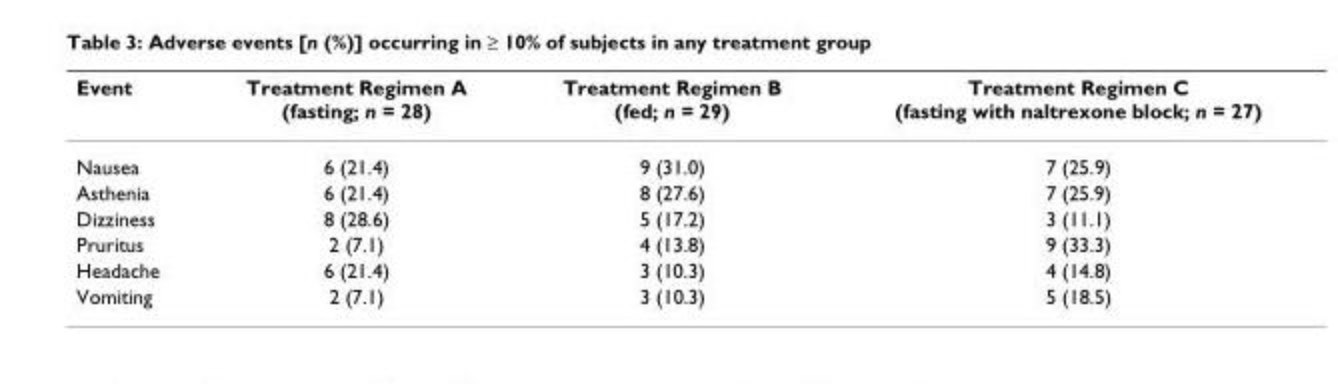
<table><thead><tr><td>Event</td><td>Treatment Regimen A (fasting; n = 28)</td><td>Treatment Regimen B (fed; n = 29)</td><td>Treatment Regimen C (fasting with naltrexone block; n = 27)</td></tr></thead><tbody><tr><td>Nausea</td><td>6 (21.4)</td><td>9 (31.0)</td><td>7 (25.9)</td></tr><tr><td>Asthenia</td><td>6 (21.4)</td><td>8 (27.6)</td><td>7 (25.9)</td></tr><tr><td>Dizziness</td><td>8 (28.6)</td><td>5 (17.2)</td><td>3 (11.1)</td></tr><tr><td>Pruritus</td><td>2 (7.1)</td><td>4 (13.8)</td><td>9 (33.3)</td></tr><tr><td>Headache</td><td>6 (21.4)</td><td>3 (10.3)</td><td>4 (14.8)</td></tr><tr><td>Vomiting</td><td>2 (7.1)</td><td>3 (10.3)</td><td>5 (18.5)</td></tr></tbody></table>